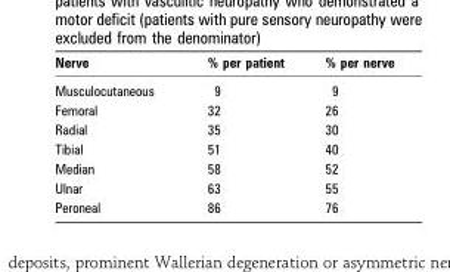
<table><thead><tr><td>Nerve</td><td>% per patient</td><td>% per nerve</td></tr></thead><tbody><tr><td>Musculocutaneous</td><td>9</td><td>9</td></tr><tr><td>Femoral</td><td>32</td><td>26</td></tr><tr><td>Radial</td><td>35</td><td>30</td></tr><tr><td>Tibial</td><td>51</td><td>40</td></tr><tr><td>Median</td><td>58</td><td>52</td></tr><tr><td>Ulnar</td><td>63</td><td>55</td></tr><tr><td>Peroneal</td><td>86</td><td>76</td></tr></tbody></table>